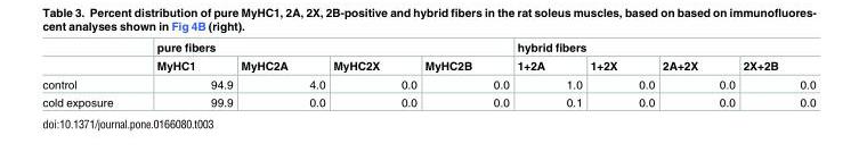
<table><thead><tr><td rowspan="2"></td><td colspan="4">pure fibers</td><td colspan="4">hybrid fibers</td></tr><tr><td>MyHC1</td><td>MyHC2A</td><td>MyHC2X</td><td>MyHC2B</td><td>1+2A</td><td>1+2X</td><td>2A+2X</td><td>2X+2B</td></tr></thead><tbody><tr><td>control</td><td>94.9</td><td>4.0</td><td>0.0</td><td>0.0</td><td>1.0</td><td>0.0</td><td>0.0</td><td>0.0</td></tr><tr><td>cold exposure</td><td>99.9</td><td>0.0</td><td>0.0</td><td>0.0</td><td>0.1</td><td>0.0</td><td>0.0</td><td>0.0</td></tr></tbody></table>